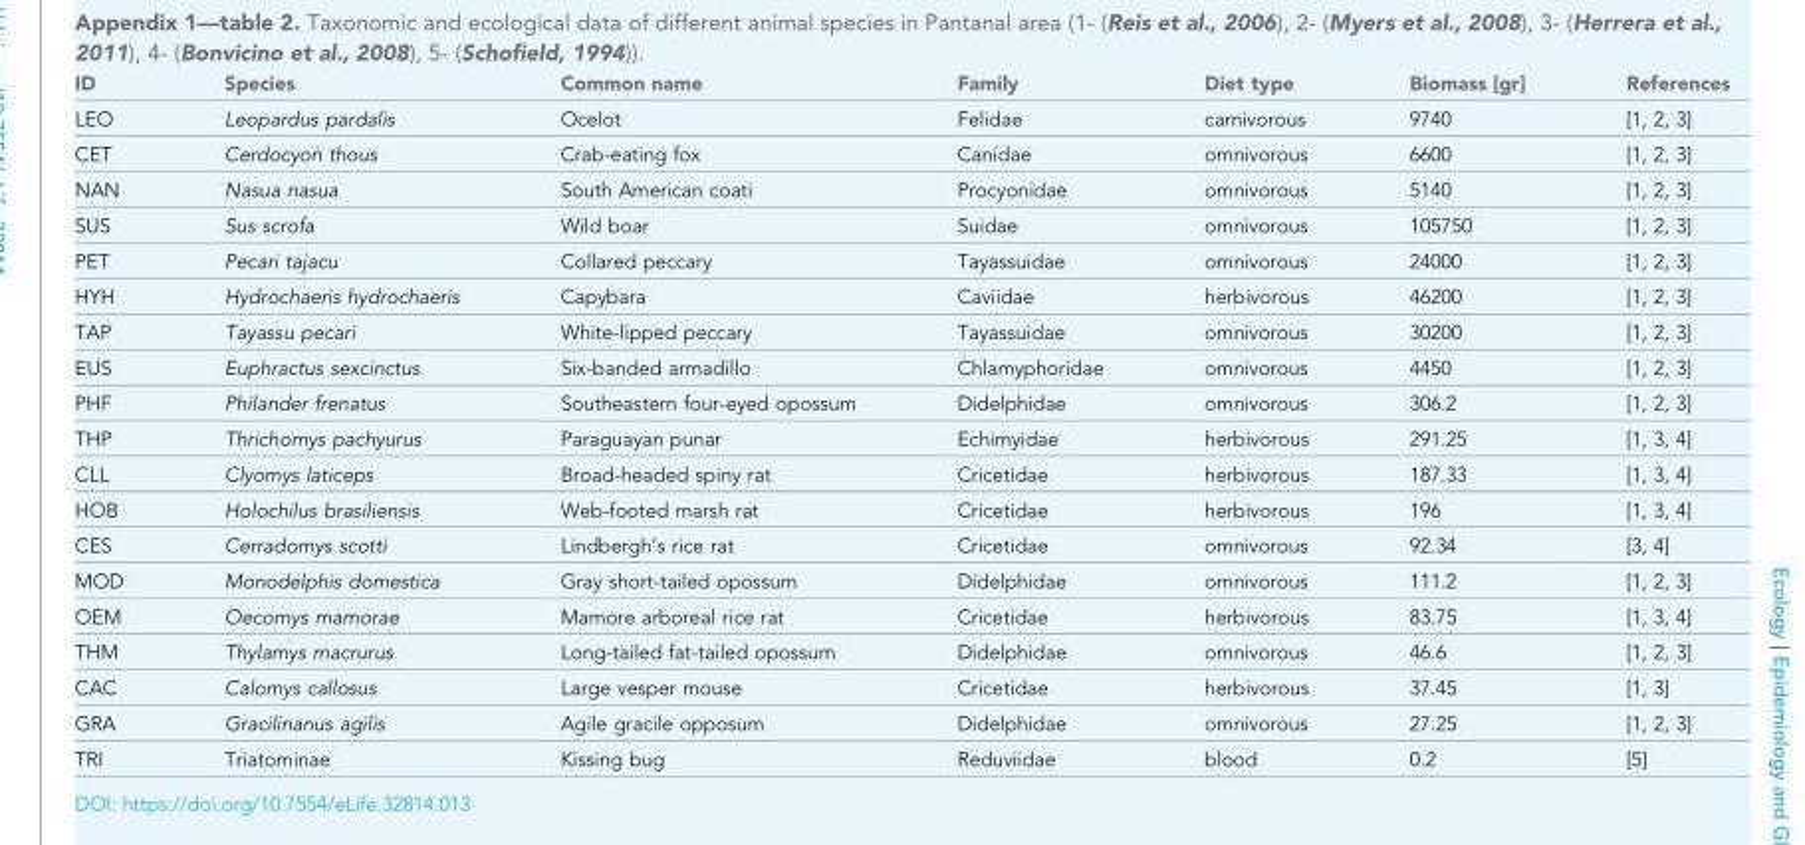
<table><thead><tr><td>ID</td><td>Species</td><td>Common name</td><td>Family</td><td>Diet type</td><td>Biomass [gr]</td><td>References</td></tr></thead><tbody><tr><td>LEO</td><td>Leopardus pardalis</td><td>Ocelot</td><td>Felidae</td><td>carnivorous</td><td>9740</td><td>[1, 2, 3]</td></tr><tr><td>CET</td><td>Cerdocyon thous</td><td>Crab-eating fox</td><td>Canidae</td><td>omnivorous</td><td>6600</td><td>[1, 2, 3]</td></tr><tr><td>NAN</td><td>Nasua nasua</td><td>South American coati</td><td>Procyonidae</td><td>omnivorous</td><td>5140</td><td>[1, 2, 3]</td></tr><tr><td>SUS</td><td>Sus scrofa</td><td>Wild boar</td><td>Suidae</td><td>omnivorous</td><td>105750</td><td>[1, 2, 3]</td></tr><tr><td>PET</td><td>Pecari tajacu</td><td>Collared peccary</td><td>Tayassuidae</td><td>omnivorous</td><td>24000</td><td>[1, 2, 3]</td></tr><tr><td>HYH</td><td>Hydrochaeris hydrochaeris</td><td>Capybara</td><td>Caviidae</td><td>herbivorous</td><td>46200</td><td>[1, 2, 3]</td></tr><tr><td>TAP</td><td>Tayassu pecari</td><td>White-lipped peccary</td><td>Tayassuidae</td><td>omnivorous</td><td>30200</td><td>[1, 2, 3]</td></tr><tr><td>EUS</td><td>Euphractus sexcinctus</td><td>Six-banded armadillo</td><td>Chlamyphoridae</td><td>omnivorous</td><td>4450</td><td>[1, 2, 3]</td></tr><tr><td>PHF</td><td>Philander frenatus</td><td>Southeastern four-eyed opossum</td><td>Didelphidae</td><td>omnivorous</td><td>306.2</td><td>[1, 2, 3]</td></tr><tr><td>THP</td><td>Thrichomys pachyurus</td><td>Paraguayan punar</td><td>Echimyidae</td><td>herbivorous</td><td>291.25</td><td>[1, 3, 4]</td></tr><tr><td>CLL</td><td>Clyomys laticeps</td><td>Broad-headed spiny rat</td><td>Cricetidae</td><td>herbivorous</td><td>187.33</td><td>[1, 3, 4]</td></tr><tr><td>HOB</td><td>Holochilus brasiliensis</td><td>Web-footed marsh rat</td><td>Cricetidae</td><td>herbivorous</td><td>196</td><td>[1, 3, 4]</td></tr><tr><td>CES</td><td>Cerradomys scotti</td><td>Lindbergh’s rice rat</td><td>Cricetidae</td><td>omnivorous</td><td>92.34</td><td>[3, 4]</td></tr><tr><td>MOD</td><td>Monodelphis domestica</td><td>Gray short-tailed opossum</td><td>Didelphidae</td><td>omnivorous</td><td>111.2</td><td>[1, 2, 3]</td></tr><tr><td>OEM</td><td>Oecomys mamorae</td><td>Mamore arboreal rice rat</td><td>Cricetidae</td><td>herbivorous</td><td>83.75</td><td>[1, 3, 4]</td></tr><tr><td>THM</td><td>Thylamys macrurus</td><td>Long-tailed fat-tailed opossum</td><td>Didelphidae</td><td>omnivorous</td><td>46.6</td><td>[1, 2, 3]</td></tr><tr><td>CAC</td><td>Calomys callosus</td><td>Large vesper mouse</td><td>Cricetidae</td><td>herbivorous</td><td>37.45</td><td>[1, 3]</td></tr><tr><td>GRA</td><td>Gracilinanus agilis</td><td>Agile gracile opposum</td><td>Didelphidae</td><td>omnivorous</td><td>27.25</td><td>[1, 2, 3]</td></tr><tr><td>TRI</td><td>Triatominae</td><td>Kissing bug</td><td>Reduviidae</td><td>blood</td><td>0.2</td><td>[5]</td></tr></tbody></table>